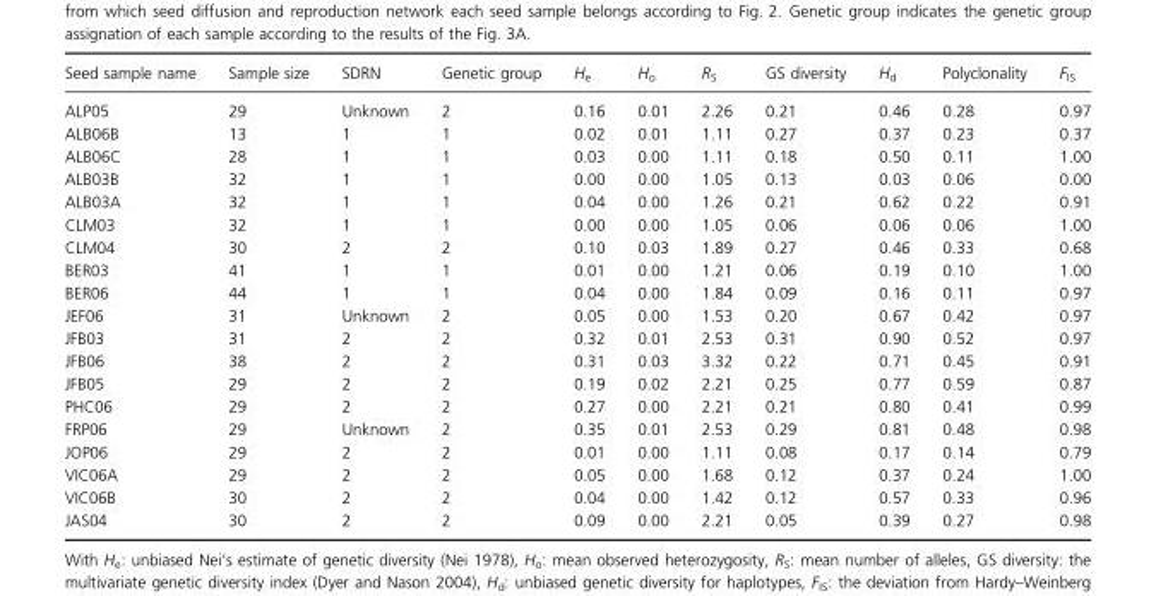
<table><thead><tr><td>Seed sample name</td><td>Sample size</td><td>SDRN</td><td>Genetic group</td><td>H<sub>e</sub></td><td>H<sub>o</sub></td><td>R<sub>S</sub></td><td>GS diversity</td><td>H<sub>d</sub></td><td>Polyclonality</td><td>F<sub>IS</sub></td></tr></thead><tbody><tr><td>ALP05</td><td>29</td><td>Unknown</td><td>2</td><td>0.16</td><td>0.01</td><td>2.26</td><td>0.21</td><td>0.46</td><td>0.28</td><td>0.97</td></tr><tr><td>ALB06B</td><td>13</td><td>1</td><td>1</td><td>0.02</td><td>0.01</td><td>1.11</td><td>0.27</td><td>0.37</td><td>0.23</td><td>0.37</td></tr><tr><td>ALB06C</td><td>28</td><td>1</td><td>1</td><td>0.03</td><td>0.00</td><td>1.11</td><td>0.18</td><td>0.50</td><td>0.11</td><td>1.00</td></tr><tr><td>ALB03B</td><td>32</td><td>1</td><td>1</td><td>0.00</td><td>0.00</td><td>1.05</td><td>0.13</td><td>0.03</td><td>0.06</td><td>0.00</td></tr><tr><td>ALB03A</td><td>32</td><td>1</td><td>1</td><td>0.04</td><td>0.00</td><td>1.26</td><td>0.21</td><td>0.62</td><td>0.22</td><td>0.91</td></tr><tr><td>CLM03</td><td>32</td><td>1</td><td>1</td><td>0.00</td><td>0.00</td><td>1.05</td><td>0.06</td><td>0.06</td><td>0.06</td><td>1.00</td></tr><tr><td>CLM04</td><td>30</td><td>2</td><td>2</td><td>0.10</td><td>0.03</td><td>1.89</td><td>0.27</td><td>0.46</td><td>0.33</td><td>0.68</td></tr><tr><td>BER03</td><td>41</td><td>1</td><td>1</td><td>0.01</td><td>0.00</td><td>1.21</td><td>0.06</td><td>0.19</td><td>0.10</td><td>1.00</td></tr><tr><td>BER06</td><td>44</td><td>1</td><td>1</td><td>0.04</td><td>0.00</td><td>1.84</td><td>0.09</td><td>0.16</td><td>0.11</td><td>0.97</td></tr><tr><td>JEF06</td><td>31</td><td>Unknown</td><td>2</td><td>0.05</td><td>0.00</td><td>1.53</td><td>0.20</td><td>0.67</td><td>0.42</td><td>0.97</td></tr><tr><td>JFB03</td><td>31</td><td>2</td><td>2</td><td>0.32</td><td>0.01</td><td>2.53</td><td>0.31</td><td>0.90</td><td>0.52</td><td>0.97</td></tr><tr><td>JFB06</td><td>38</td><td>2</td><td>2</td><td>0.31</td><td>0.03</td><td>3.32</td><td>0.22</td><td>0.71</td><td>0.45</td><td>0.91</td></tr><tr><td>JFB05</td><td>29</td><td>2</td><td>2</td><td>0.19</td><td>0.02</td><td>2.21</td><td>0.25</td><td>0.77</td><td>0.59</td><td>0.87</td></tr><tr><td>PHC06</td><td>29</td><td>2</td><td>2</td><td>0.27</td><td>0.00</td><td>2.21</td><td>0.21</td><td>0.80</td><td>0.41</td><td>0.99</td></tr><tr><td>FRP06</td><td>29</td><td>Unknown</td><td>2</td><td>0.35</td><td>0.01</td><td>2.53</td><td>0.29</td><td>0.81</td><td>0.48</td><td>0.98</td></tr><tr><td>JOP06</td><td>29</td><td>2</td><td>2</td><td>0.01</td><td>0.00</td><td>1.11</td><td>0.08</td><td>0.17</td><td>0.14</td><td>0.79</td></tr><tr><td>VIC06A</td><td>29</td><td>2</td><td>2</td><td>0.05</td><td>0.00</td><td>1.68</td><td>0.12</td><td>0.37</td><td>0.24</td><td>1.00</td></tr><tr><td>VIC06B</td><td>30</td><td>2</td><td>2</td><td>0.04</td><td>0.00</td><td>1.42</td><td>0.12</td><td>0.57</td><td>0.33</td><td>0.96</td></tr><tr><td>JAS04</td><td>30</td><td>2</td><td>2</td><td>0.09</td><td>0.00</td><td>2.21</td><td>0.05</td><td>0.39</td><td>0.27</td><td>0.98</td></tr></tbody></table>